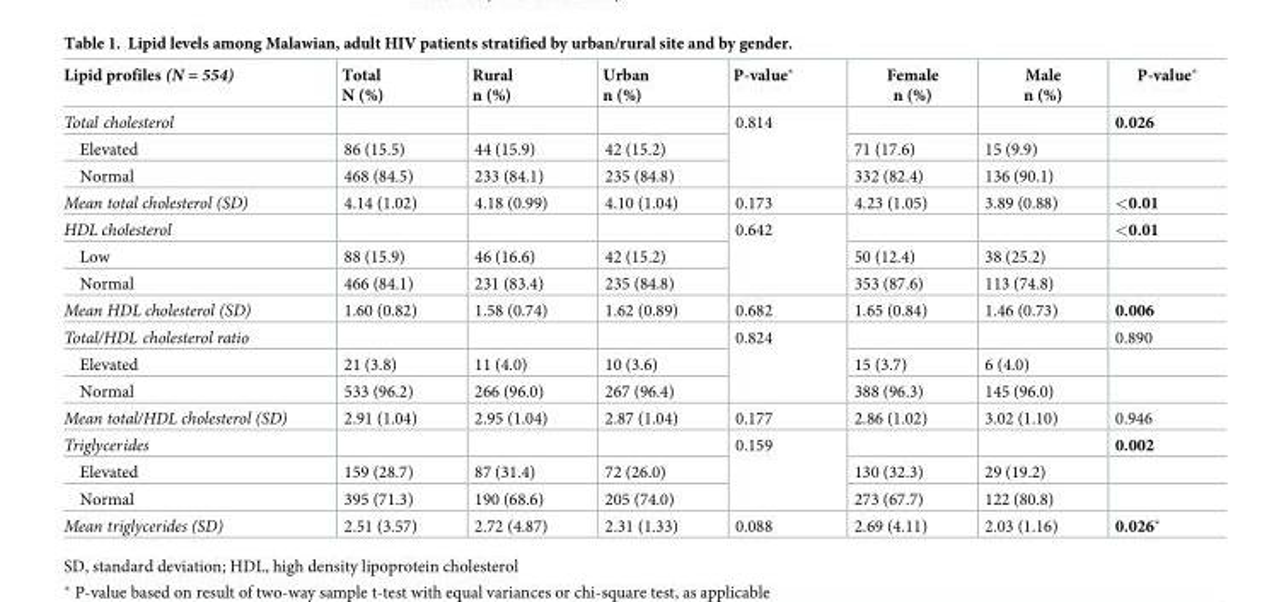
<table><thead><tr><td>Lipid profiles (N = 554)</td><td>Total N (%)</td><td>Rural n (%)</td><td>Urban n (%)</td><td>P-value*</td><td>Female n (%)</td><td>Male n (%)</td><td>P-value*</td></tr></thead><tbody><tr><td>Total cholesterol</td><td></td><td></td><td></td><td rowspan="3">0.814</td><td></td><td></td><td>0.026</td></tr><tr><td>Elevated</td><td>86 (15.5)</td><td>44 (15.9)</td><td>42 (15.2)</td><td>71 (17.6)</td><td>15 (9.9)</td><td></td></tr><tr><td>Normal</td><td>468 (84.5)</td><td>233 (84.1)</td><td>235 (84.8)</td><td>332 (82.4)</td><td>136 (90.1)</td><td></td></tr><tr><td>Mean total cholesterol (SD)</td><td>4.14 (1.02)</td><td>4.18 (0.99)</td><td>4.10 (1.04)</td><td>0.173</td><td>4.23 (1.05)</td><td>3.89 (0.88)</td><td>&lt;0.01</td></tr><tr><td>HDL cholesterol</td><td></td><td></td><td></td><td rowspan="3">0.642</td><td></td><td></td><td>&lt;0.01</td></tr><tr><td>Low</td><td>88 (15.9)</td><td>46 (16.6)</td><td>42 (15.2)</td><td>50 (12.4)</td><td>38 (25.2)</td><td></td></tr><tr><td>Normal</td><td>466 (84.1)</td><td>231 (83.4)</td><td>235 (84.8)</td><td>353 (87.6)</td><td>113 (74.8)</td><td></td></tr><tr><td>Mean HDL cholesterol (SD)</td><td>1.60 (0.82)</td><td>1.58 (0.74)</td><td>1.62 (0.89)</td><td>0.682</td><td>1.65 (0.84)</td><td>1.46 (0.73)</td><td>0.006</td></tr><tr><td>Total/HDL cholesterol ratio</td><td></td><td></td><td></td><td rowspan="3">0.824</td><td></td><td></td><td>0.890</td></tr><tr><td>Elevated</td><td>21 (3.8)</td><td>11 (4.0)</td><td>10 (3.6)</td><td>15 (3.7)</td><td>6 (4.0)</td><td></td></tr><tr><td>Normal</td><td>533 (96.2)</td><td>266 (96.0)</td><td>267 (96.4)</td><td>388 (96.3)</td><td>145 (96.0)</td><td></td></tr><tr><td>Mean total/HDL cholesterol (SD)</td><td>2.91 (1.04)</td><td>2.95 (1.04)</td><td>2.87 (1.04)</td><td>0.177</td><td>2.86 (1.02)</td><td>3.02 (1.10)</td><td>0.946</td></tr><tr><td>Triglycerides</td><td></td><td></td><td></td><td rowspan="3">0.159</td><td></td><td></td><td>0.002</td></tr><tr><td>Elevated</td><td>159 (28.7)</td><td>87 (31.4)</td><td>72 (26.0)</td><td>130 (32.3)</td><td>29 (19.2)</td><td></td></tr><tr><td>Normal</td><td>395 (71.3)</td><td>190 (68.6)</td><td>205 (74.0)</td><td>273 (67.7)</td><td>122 (80.8)</td><td></td></tr><tr><td>Mean triglycerides (SD)</td><td>2.51 (3.57)</td><td>2.72 (4.87)</td><td>2.31 (1.33)</td><td>0.088</td><td>2.69 (4.11)</td><td>2.03 (1.16)</td><td>0.026*</td></tr></tbody></table>